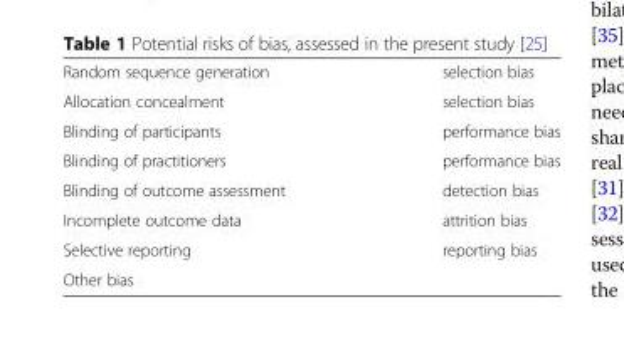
<table><tbody><tr><td>Random sequence generation</td><td>selection bias</td></tr><tr><td>Allocation concealment</td><td>selection bias</td></tr><tr><td>Blinding of participants</td><td>performance bias</td></tr><tr><td>Blinding of practitioners</td><td>performance bias</td></tr><tr><td>Blinding of outcome assessment</td><td>detection bias</td></tr><tr><td>Incomplete outcome data</td><td>attrition bias</td></tr><tr><td>Selective reporting</td><td>reporting bias</td></tr><tr><td>Other bias</td><td></td></tr></tbody></table>